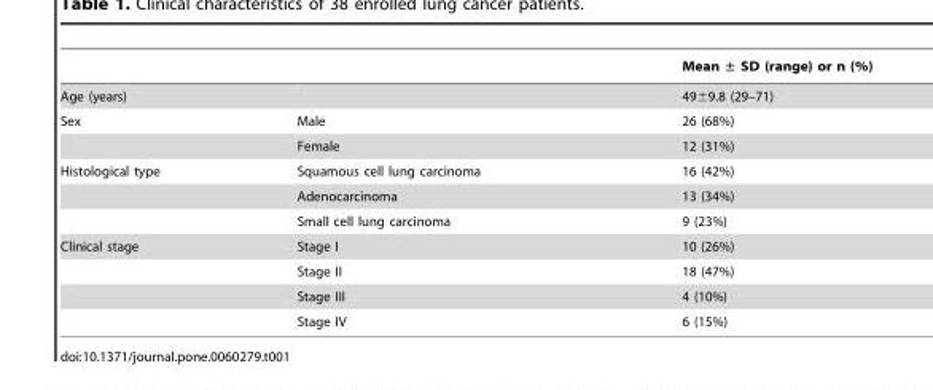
<table><thead><tr><td></td><td></td><td>Mean ± SD (range) or n (%)</td></tr></thead><tbody><tr><td>Age (years)</td><td></td><td>49±9.8 (29–71)</td></tr><tr><td rowspan="2">Sex</td><td>Male</td><td>26 (68%)</td></tr><tr><td>Female</td><td>12 (31%)</td></tr><tr><td rowspan="3">Histological type</td><td>Squamous cell lung carcinoma</td><td>16 (42%)</td></tr><tr><td>Adenocarcinoma</td><td>13 (34%)</td></tr><tr><td>Small cell lung carcinoma</td><td>9 (23%)</td></tr><tr><td rowspan="4">Clinical stage</td><td>Stage I</td><td>10 (26%)</td></tr><tr><td>Stage II</td><td>18 (47%)</td></tr><tr><td>Stage III</td><td>4 (10%)</td></tr><tr><td>Stage IV</td><td>6 (15%)</td></tr></tbody></table>